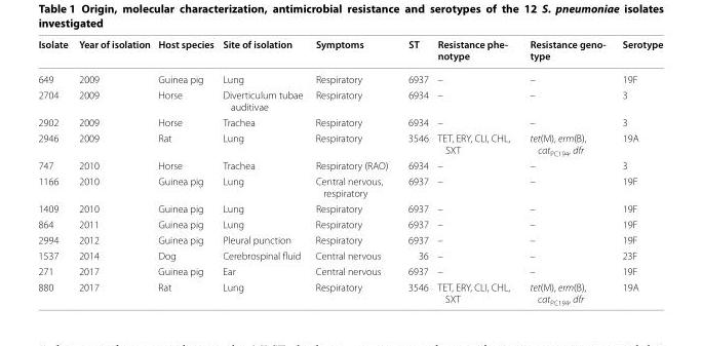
<table><thead><tr><td>Isolate</td><td>Year of isolation</td><td>Host species</td><td>Site of isolation</td><td>Symptoms</td><td>ST</td><td>Resistance phe- notype</td><td>Resistance geno- type</td><td>Serotype</td></tr></thead><tbody><tr><td>649</td><td>2009</td><td>Guinea pig</td><td>Lung</td><td>Respiratory</td><td>6937</td><td>–</td><td>–</td><td>19F</td></tr><tr><td>2704</td><td>2009</td><td>Horse</td><td>Diverticulum tubae auditivae</td><td>Respiratory</td><td>6934</td><td>–</td><td>–</td><td>3</td></tr><tr><td>2902</td><td>2009</td><td>Horse</td><td>Trachea</td><td>Respiratory</td><td>6934</td><td>–</td><td>–</td><td>3</td></tr><tr><td>2946</td><td>2009</td><td>Rat</td><td>Lung</td><td>Respiratory</td><td>3546</td><td>TET, ERY, CLI, CHL, SXT</td><td>tet(M), erm(B), cat<sub>PC194</sub>, dfr</td><td>19A</td></tr><tr><td>747</td><td>2010</td><td>Horse</td><td>Trachea</td><td>Respiratory (RAO)</td><td>6934</td><td>–</td><td>–</td><td>3</td></tr><tr><td>1166</td><td>2010</td><td>Guinea pig</td><td>Lung</td><td>Central nervous, respiratory</td><td>6937</td><td>–</td><td>–</td><td>19F</td></tr><tr><td>1409</td><td>2010</td><td>Guinea pig</td><td>Lung</td><td>Respiratory</td><td>6937</td><td>–</td><td>–</td><td>19F</td></tr><tr><td>864</td><td>2011</td><td>Guinea pig</td><td>Lung</td><td>Respiratory</td><td>6937</td><td>–</td><td>–</td><td>19F</td></tr><tr><td>2994</td><td>2012</td><td>Guinea pig</td><td>Pleural punction</td><td>Respiratory</td><td>6937</td><td>–</td><td>–</td><td>19F</td></tr><tr><td>1537</td><td>2014</td><td>Dog</td><td>Cerebrospinal fluid</td><td>Central nervous</td><td>36</td><td>–</td><td>–</td><td>23F</td></tr><tr><td>271</td><td>2017</td><td>Guinea pig</td><td>Ear</td><td>Central nervous</td><td>6937</td><td>–</td><td>–</td><td>19F</td></tr><tr><td>880</td><td>2017</td><td>Rat</td><td>Lung</td><td>Respiratory</td><td>3546</td><td>TET, ERY, CLI, CHL, SXT</td><td>tet(M), erm(B), cat<sub>PC194</sub>, dfr</td><td>19A</td></tr></tbody></table>